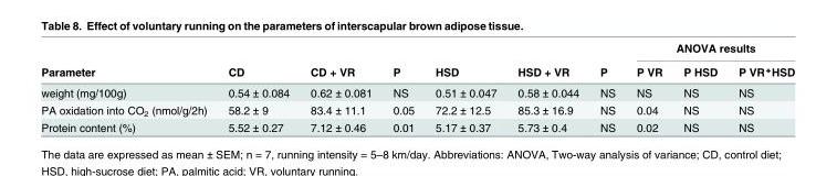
<table><thead><tr><td rowspan="2">Parameter</td><td rowspan="2">CD</td><td rowspan="2">CD + VR</td><td rowspan="2">P</td><td rowspan="2">HSD</td><td rowspan="2">HSD + VR</td><td rowspan="2">P</td><td colspan="3">ANOVA results</td></tr><tr><td>P VR</td><td>P HSD</td><td>P VR*HSD</td></tr></thead><tbody><tr><td>weight (mg/100g)</td><td>0.54 ± 0.084</td><td>0.62 ± 0.081</td><td>NS</td><td>0.51 ± 0.047</td><td>0.58 ± 0.044</td><td>NS</td><td>NS</td><td>NS</td><td>NS</td></tr><tr><td>PA oxidation into CO<sub>2</sub> (nmol/g/2h)</td><td>58.2 ± 9</td><td>83.4 ± 11.1</td><td>0.05</td><td>72.2 ± 12.5</td><td>85.3 ± 16.9</td><td>NS</td><td>0.04</td><td>NS</td><td>NS</td></tr><tr><td>Protein content (%)</td><td>5.52 ± 0.27</td><td>7.12 ± 0.46</td><td>0.01</td><td>5.17 ± 0.37</td><td>5.73 ± 0.4</td><td>NS</td><td>0.02</td><td>NS</td><td>NS</td></tr></tbody></table>